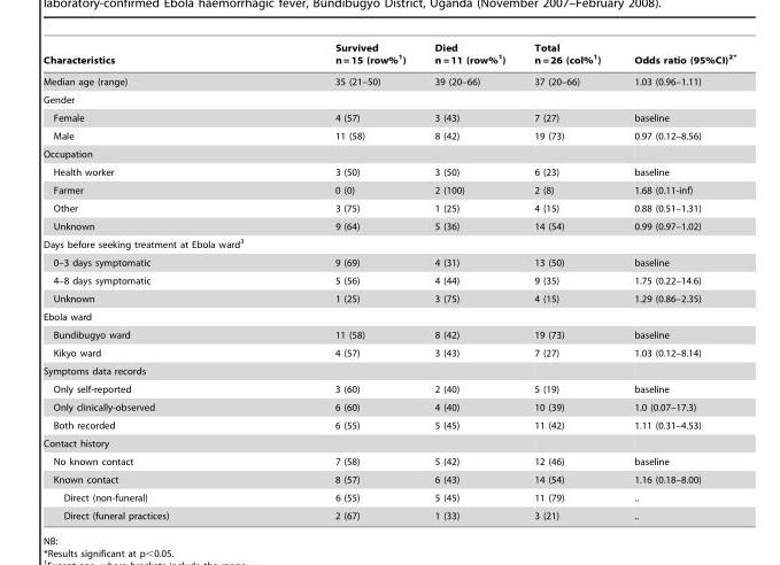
<table><thead><tr><td>Characteristics</td><td>Survived n = 15 (row%<sup>1</sup>)</td><td>Died n = 11 (row%<sup>1</sup>)</td><td>Total n = 26 (col%<sup>1</sup>)</td><td>Odds ratio (95%CI)<sup>2</sup>*</td></tr></thead><tbody><tr><td>Median age (range)</td><td>35 (21–50)</td><td>39 (20–66)</td><td>37 (20–66)</td><td>1.03 (0.96–1.11)</td></tr><tr><td colspan="5">Gender</td></tr><tr><td>Female</td><td>4 (57)</td><td>3 (43)</td><td>7 (27)</td><td>baseline</td></tr><tr><td>Male</td><td>11 (58)</td><td>8 (42)</td><td>19 (73)</td><td>0.97 (0.12–8.56)</td></tr><tr><td colspan="5">Occupation</td></tr><tr><td>Health worker</td><td>3 (50)</td><td>3 (50)</td><td>6 (23)</td><td>baseline</td></tr><tr><td>Farmer</td><td>0 (0)</td><td>2 (100)</td><td>2 (8)</td><td>1.68 (0.11-inf)</td></tr><tr><td>Other</td><td>3 (75)</td><td>1 (25)</td><td>4 (15)</td><td>0.88 (0.51–1.31)</td></tr><tr><td>Unknown</td><td>9 (64)</td><td>5 (36)</td><td>14 (54)</td><td>0.99 (0.97–1.02)</td></tr><tr><td colspan="5">Days before seeking treatment at Ebola ward<sup>3</sup></td></tr><tr><td>0–3 days symptomatic</td><td>9 (69)</td><td>4 (31)</td><td>13 (50)</td><td>baseline</td></tr><tr><td>4–8 days symptomatic</td><td>5 (56)</td><td>4 (44)</td><td>9 (35)</td><td>1.75 (0.22–14.6)</td></tr><tr><td>Unknown</td><td>1 (25)</td><td>3 (75)</td><td>4 (15)</td><td>1.29 (0.86–2.35)</td></tr><tr><td colspan="5">Ebola ward</td></tr><tr><td>Bundibugyo ward</td><td>11 (58)</td><td>8 (42)</td><td>19 (73)</td><td>baseline</td></tr><tr><td>Kikyo ward</td><td>4 (57)</td><td>3 (43)</td><td>7 (27)</td><td>1.03 (0.12–8.14)</td></tr><tr><td colspan="5">Symptoms data records</td></tr><tr><td>Only self-reported</td><td>3 (60)</td><td>2 (40)</td><td>5 (19)</td><td>baseline</td></tr><tr><td>Only clinically-observed</td><td>6 (60)</td><td>4 (40)</td><td>10 (39)</td><td>1.0 (0.07–17.3)</td></tr><tr><td>Both recorded</td><td>6 (55)</td><td>5 (45)</td><td>11 (42)</td><td>1.11 (0.31–4.53)</td></tr><tr><td colspan="5">Contact history</td></tr><tr><td>No known contact</td><td>7 (58)</td><td>5 (42)</td><td>12 (46)</td><td>baseline</td></tr><tr><td>Known contact</td><td>8 (57)</td><td>6 (43)</td><td>14 (54)</td><td>1.16 (0.18–8.00)</td></tr><tr><td>Direct (non-funeral)</td><td>6 (55)</td><td>5 (45)</td><td>11 (79)</td><td>..</td></tr><tr><td>Direct (funeral practices)</td><td>2 (67)</td><td>1 (33)</td><td>3 (21)</td><td>..</td></tr></tbody></table>